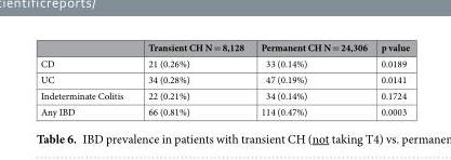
<table><thead><tr><td></td><td>Transient CH N = 8,128</td><td>Permanent CH N = 24,306</td><td>p value</td></tr></thead><tbody><tr><td>CD</td><td>21 (0.26%)</td><td>33 (0.14%)</td><td>0.0189</td></tr><tr><td>UC</td><td>34 (0.28%)</td><td>47 (0.19%)</td><td>0.0141</td></tr><tr><td>Indeterminate Colitis</td><td>22 (0.21%)</td><td>34 (0.14%)</td><td>0.1724</td></tr><tr><td>Any IBD</td><td>66 (0.81%)</td><td>114 (0.47%)</td><td>0.0003</td></tr></tbody></table>